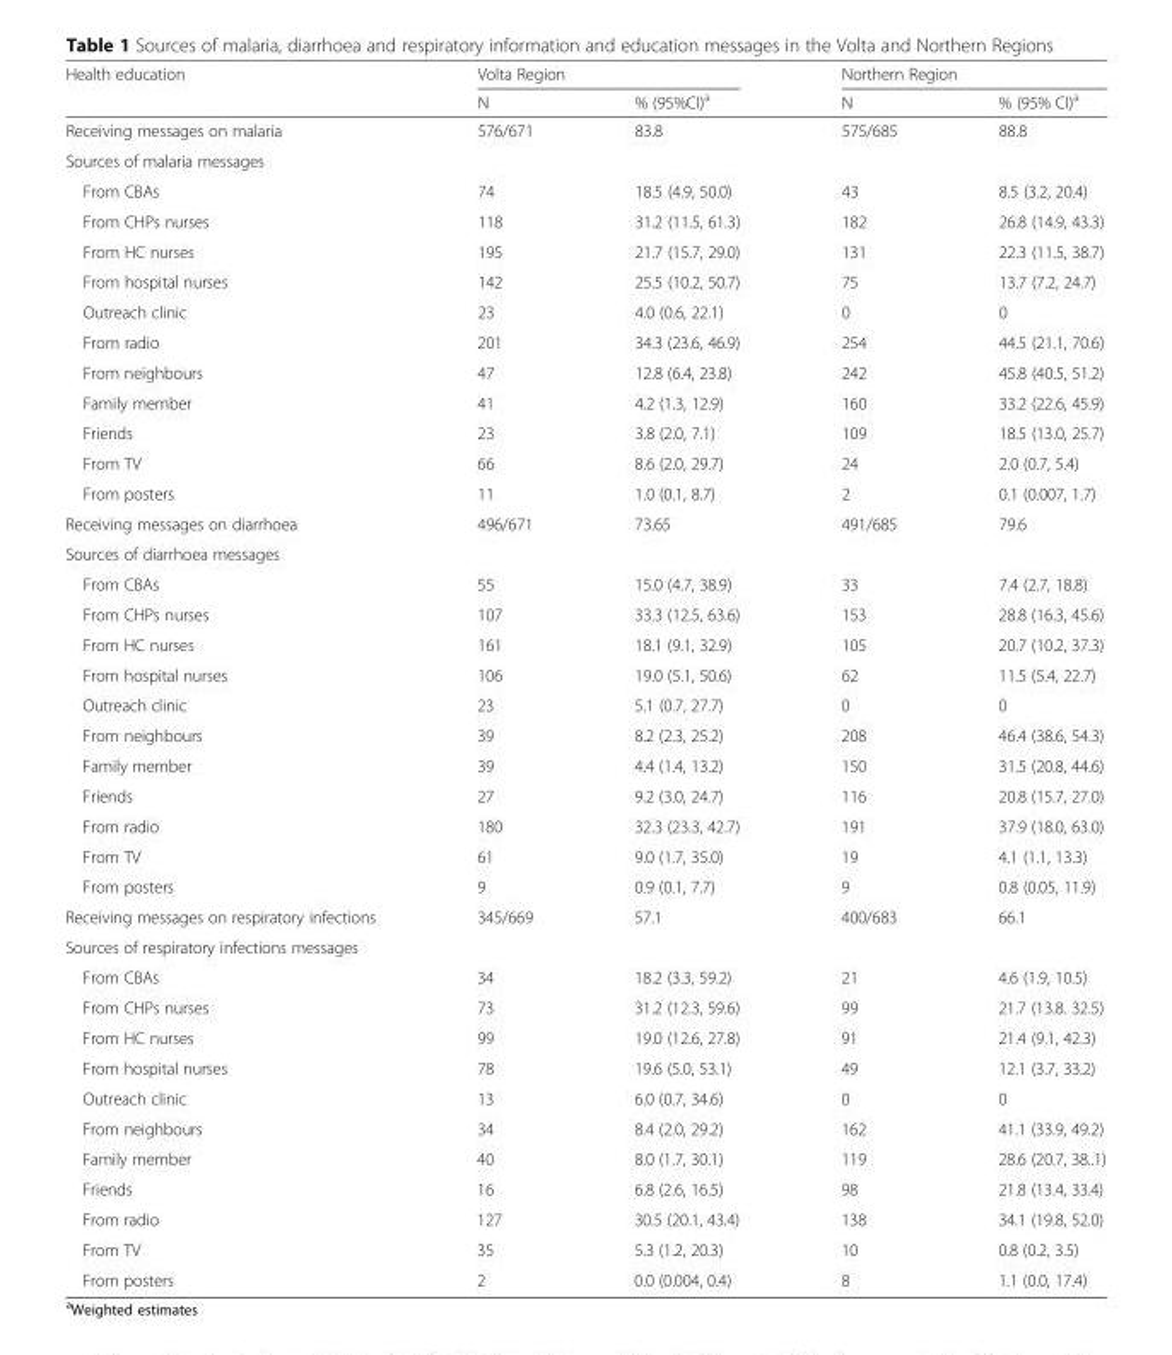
<table><thead><tr><td rowspan="2">Health education</td><td colspan="2">Volta Region</td><td colspan="2">Northern Region</td></tr><tr><td>N</td><td>% (95%CI)<sup>a</sup></td><td>N</td><td>% (95% CI)<sup>a</sup></td></tr></thead><tbody><tr><td>Receiving messages on malaria</td><td>576/671</td><td>83.8</td><td>575/685</td><td>88.8</td></tr><tr><td colspan="5">Sources of malaria messages</td></tr><tr><td>From CBAs</td><td>74</td><td>18.5 (4.9, 50.0)</td><td>43</td><td>8.5 (3.2, 20.4)</td></tr><tr><td>From CHPs nurses</td><td>118</td><td>31.2 (11.5, 61.3)</td><td>182</td><td>26.8 (14.9, 43.3)</td></tr><tr><td>From HC nurses</td><td>195</td><td>21.7 (15.7, 29.0)</td><td>131</td><td>22.3 (11.5, 38.7)</td></tr><tr><td>From hospital nurses</td><td>142</td><td>25.5 (10.2, 50.7)</td><td>75</td><td>13.7 (7.2, 24.7)</td></tr><tr><td>Outreach clinic</td><td>23</td><td>4.0 (0.6, 22.1)</td><td>0</td><td>0</td></tr><tr><td>From radio</td><td>201</td><td>34.3 (23.6, 46.9)</td><td>254</td><td>44.5 (21.1, 70.6)</td></tr><tr><td>From neighbours</td><td>47</td><td>12.8 (6.4, 23.8)</td><td>242</td><td>45.8 (40.5, 51.2)</td></tr><tr><td>Family member</td><td>41</td><td>4.2 (1.3, 12.9)</td><td>160</td><td>33.2 (22.6, 45.9)</td></tr><tr><td>Friends</td><td>23</td><td>3.8 (2.0, 7.1)</td><td>109</td><td>18.5 (13.0, 25.7)</td></tr><tr><td>From TV</td><td>66</td><td>8.6 (2.0, 29.7)</td><td>24</td><td>2.0 (0.7, 5.4)</td></tr><tr><td>From posters</td><td>11</td><td>1.0 (0.1, 8.7)</td><td>2</td><td>0.1 (0.007, 1.7)</td></tr><tr><td>Receiving messages on diarrhoea</td><td>496/671</td><td>73.65</td><td>491/685</td><td>79.6</td></tr><tr><td colspan="5">Sources of diarrhoea messages</td></tr><tr><td>From CBAs</td><td>55</td><td>15.0 (4.7, 38.9)</td><td>33</td><td>7.4 (2.7, 18.8)</td></tr><tr><td>From CHPs nurses</td><td>107</td><td>33.3 (12.5, 63.6)</td><td>153</td><td>28.8 (16.3, 45.6)</td></tr><tr><td>From HC nurses</td><td>161</td><td>18.1 (9.1, 32.9)</td><td>105</td><td>20.7 (10.2, 37.3)</td></tr><tr><td>From hospital nurses</td><td>106</td><td>19.0 (5.1, 50.6)</td><td>62</td><td>11.5 (5.4, 22.7)</td></tr><tr><td>Outreach clinic</td><td>23</td><td>5.1 (0.7, 27.7)</td><td>0</td><td>0</td></tr><tr><td>From neighbours</td><td>39</td><td>8.2 (2.3, 25.2)</td><td>208</td><td>46.4 (38.6, 54.3)</td></tr><tr><td>Family member</td><td>39</td><td>4.4 (1.4, 13.2)</td><td>150</td><td>31.5 (20.8, 44.6)</td></tr><tr><td>Friends</td><td>27</td><td>9.2 (3.0, 24.7)</td><td>116</td><td>20.8 (15.7, 27.0)</td></tr><tr><td>From radio</td><td>180</td><td>32.3 (23.3, 42.7)</td><td>191</td><td>37.9 (18.0, 63.0)</td></tr><tr><td>From TV</td><td>61</td><td>9.0 (1.7, 35.0)</td><td>19</td><td>4.1 (1.1, 13.3)</td></tr><tr><td>From posters</td><td>9</td><td>0.9 (0.1, 7.7)</td><td>9</td><td>0.8 (0.05, 11.9)</td></tr><tr><td>Receiving messages on respiratory infections</td><td>345/669</td><td>57.1</td><td>400/683</td><td>66.1</td></tr><tr><td colspan="5">Sources of respiratory infections messages</td></tr><tr><td>From CBAs</td><td>34</td><td>18.2 (3.3, 59.2)</td><td>21</td><td>4.6 (1.9, 10.5)</td></tr><tr><td>From CHPs nurses</td><td>73</td><td>31.2 (12.3, 59.6)</td><td>99</td><td>21.7 (13.8. 32.5)</td></tr><tr><td>From HC nurses</td><td>99</td><td>19.0 (12.6, 27.8)</td><td>91</td><td>21.4 (9.1, 42.3)</td></tr><tr><td>From hospital nurses</td><td>78</td><td>19.6 (5.0, 53.1)</td><td>49</td><td>12.1 (3.7, 33.2)</td></tr><tr><td>Outreach clinic</td><td>13</td><td>6.0 (0.7, 34.6)</td><td>0</td><td>0</td></tr><tr><td>From neighbours</td><td>34</td><td>8.4 (2.0, 29.2)</td><td>162</td><td>41.1 (33.9, 49.2)</td></tr><tr><td>Family member</td><td>40</td><td>8.0 (1.7, 30.1)</td><td>119</td><td>28.6 (20.7, 38..1)</td></tr><tr><td>Friends</td><td>16</td><td>6.8 (2.6, 16.5)</td><td>98</td><td>21.8 (13.4, 33.4)</td></tr><tr><td>From radio</td><td>127</td><td>30.5 (20.1, 43.4)</td><td>138</td><td>34.1 (19.8, 52.0)</td></tr><tr><td>From TV</td><td>35</td><td>5.3 (1.2, 20.3)</td><td>10</td><td>0.8 (0.2, 3.5)</td></tr><tr><td>From posters</td><td>2</td><td>0.0 (0.004, 0.4)</td><td>8</td><td>1.1 (0.0, 17.4)</td></tr></tbody></table>